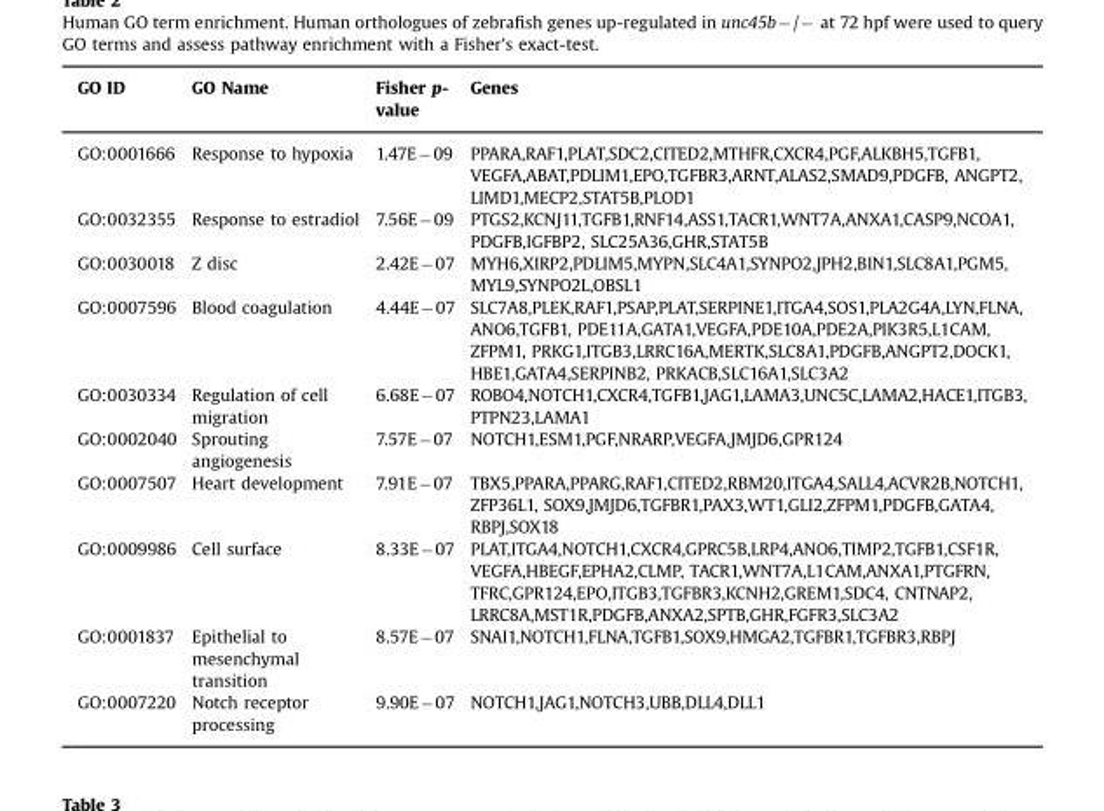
<table><thead><tr><td>GO ID</td><td>GO Name</td><td>Fisher p- value</td><td>Genes</td></tr></thead><tbody><tr><td>GO:0001666</td><td>Response to hypoxia</td><td>1.47E−09</td><td>PPARA,RAF1,PLAT,SDC2,CITED2,MTHFR,CXCR4,PGF,ALKBH5,TGFB1, VEGFA,ABAT,PDLIM1,EPO,TGFBR3,ARNT,ALAS2,SMAD9,PDGFB, ANGPT2, LIMD1,MECP2,STAT5B,PLOD1</td></tr><tr><td>GO:0032355</td><td>Response to estradiol</td><td>7.56E−09</td><td>PTGS2,KCNJ11,TGFB1,RNF14,ASS1,TACR1,WNT7A,ANXA1,CASP9,NCOA1, PDGFB,IGFBP2, SLC25A36,GHR,STAT5B</td></tr><tr><td>GO:0030018</td><td>Z disc</td><td>2.42E−07</td><td>MYH6,XIRP2,PDLIM5,MYPN,SLC4A1,SYNPO2,JPH2,BIN1,SLC8A1,PGM5, MYL9,SYNPO2L,OBSL1</td></tr><tr><td>GO:0007596</td><td>Blood coagulation</td><td>4.44E−07</td><td>SLC7A8,PLEK,RAF1,PSAP,PLAT,SERPINE1,ITGA4,SOS1,PLA2G4A,LYN,FLNA, ANO6,TGFB1, PDE11A,GATA1,VEGFA,PDE10A,PDE2A,PIK3R5,L1CAM, ZFPM1, PRKG1,ITGB3,LRRC16A,MERTK,SLC8A1,PDGFB,ANGPT2,DOCK1, HBE1,GATA4,SERPINB2, PRKACB,SLC16A1,SLC3A2</td></tr><tr><td>GO:0030334</td><td>Regulation of cell migration</td><td>6.68E−07</td><td>ROBO4,NOTCH1,CXCR4,TGFB1,JAG1,LAMA3,UNC5C,LAMA2,HACE1,ITGB3, PTPN23,LAMA1</td></tr><tr><td>GO:0002040</td><td>Sprouting angiogenesis</td><td>7.57E−07</td><td>NOTCH1,ESM1,PGF,NRARP,VEGFA,JMJD6,GPR124</td></tr><tr><td>GO:0007507</td><td>Heart development</td><td>7.91E−07</td><td>TBX5,PPARA,PPARG,RAF1,CITED2,RBM20,ITGA4,SALL4,ACVR2B,NOTCH1, ZFP36L1, SOX9,JMJD6,TGFBR1,PAX3,WT1,GLI2,ZFPM1,PDGFB,GATA4, RBPJ,SOX18</td></tr><tr><td>GO:0009986</td><td>Cell surface</td><td>8.33E−07</td><td>PLAT,ITGA4,NOTCH1,CXCR4,GPRC5B,LRP4,ANO6,TIMP2,TGFB1,CSF1R, VEGFA,HBEGF,EPHA2,CLMP, TACR1,WNT7A,L1CAM,ANXA1,PTGFRN, TFRC,GPR124,EPO,ITGB3,TGFBR3,KCNH2,GREM1,SDC4, CNTNAP2, LRRC8A,MST1R,PDGFB,ANXA2,SPTB,GHR,FGFR3,SLC3A2</td></tr><tr><td>GO:0001837</td><td>Epithelial to mesenchymal transition</td><td>8.57E−07</td><td>SNAI1,NOTCH1,FLNA,TGFB1,SOX9,HMGA2,TGFBR1,TGFBR3,RBPJ</td></tr><tr><td>GO:0007220</td><td>Notch receptor processing</td><td>9.90E−07</td><td>NOTCH1,JAG1,NOTCH3,UBB,DLL4,DLL1</td></tr></tbody></table>